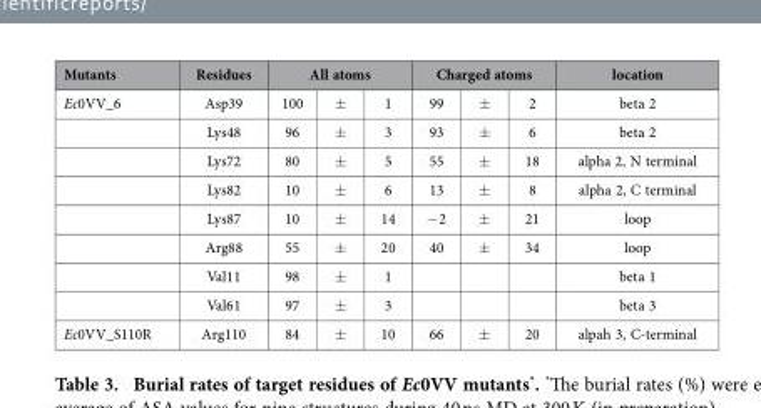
<table><thead><tr><td rowspan="2">Mutants Ec0VV_6</td><td rowspan="2">Residues Asp39</td><td colspan="3">All atoms</td><td colspan="3">Charged atoms</td><td rowspan="2">location beta 2</td></tr><tr><td>100</td><td>±</td><td>1</td><td>99</td><td>±</td><td>2</td></tr></thead><tbody><tr><td></td><td>Lys48</td><td>96</td><td>±</td><td>3</td><td>93</td><td>±</td><td>6</td><td>beta 2</td></tr><tr><td></td><td>Lys72</td><td>80</td><td>±</td><td>5</td><td>55</td><td>±</td><td>18</td><td>alpha 2, N terminal</td></tr><tr><td></td><td>Lys82</td><td>10</td><td>±</td><td>6</td><td>13</td><td>±</td><td>8</td><td>alpha 2, C terminal</td></tr><tr><td></td><td>Lys87</td><td>10</td><td>±</td><td>14</td><td>− 2</td><td>±</td><td>21</td><td>loop</td></tr><tr><td></td><td>Arg88</td><td>55</td><td>±</td><td>20</td><td>40</td><td>±</td><td>34</td><td>loop</td></tr><tr><td></td><td>Val11</td><td>98</td><td>±</td><td>1</td><td></td><td></td><td></td><td>beta 1</td></tr><tr><td></td><td>Val61</td><td>97</td><td>±</td><td>3</td><td></td><td></td><td></td><td>beta 3</td></tr><tr><td>Ec0VV_S110R</td><td>Arg110</td><td>84</td><td>±</td><td>10</td><td>66</td><td>±</td><td>20</td><td>alpah 3, C-terminal</td></tr></tbody></table>